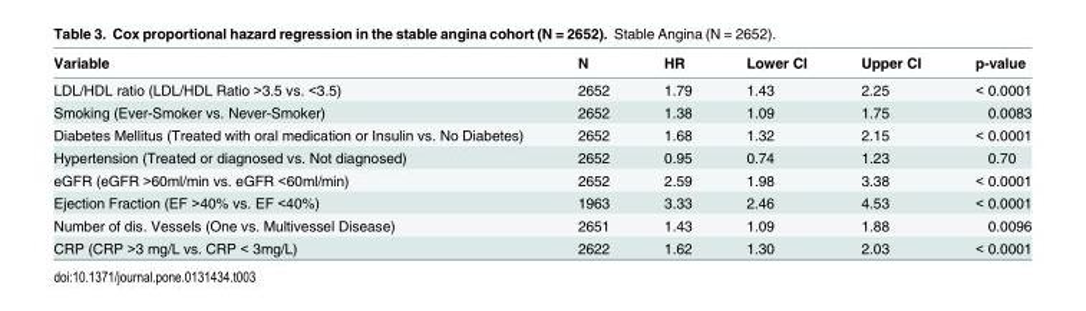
<table><thead><tr><td>Variable</td><td>N</td><td>HR</td><td>Lower CI</td><td>Upper CI</td><td>p-value</td></tr></thead><tbody><tr><td>LDL/HDL ratio (LDL/HDL Ratio &gt;3.5 vs. &lt;3.5)</td><td>2652</td><td>1.79</td><td>1.43</td><td>2.25</td><td>&lt; 0.0001</td></tr><tr><td>Smoking (Ever-Smoker vs. Never-Smoker)</td><td>2652</td><td>1.38</td><td>1.09</td><td>1.75</td><td>0.0083</td></tr><tr><td>Diabetes Mellitus (Treated with oral medication or Insulin vs. No Diabetes)</td><td>2652</td><td>1.68</td><td>1.32</td><td>2.15</td><td>&lt; 0.0001</td></tr><tr><td>Hypertension (Treated or diagnosed vs. Not diagnosed)</td><td>2652</td><td>0.95</td><td>0.74</td><td>1.23</td><td>0.70</td></tr><tr><td>eGFR (eGFR &gt;60ml/min vs. eGFR &lt;60ml/min)</td><td>2652</td><td>2.59</td><td>1.98</td><td>3.38</td><td>&lt; 0.0001</td></tr><tr><td>Ejection Fraction (EF &gt;40% vs. EF &lt;40%)</td><td>1963</td><td>3.33</td><td>2.46</td><td>4.53</td><td>&lt; 0.0001</td></tr><tr><td>Number of dis. Vessels (One vs. Multivessel Disease)</td><td>2651</td><td>1.43</td><td>1.09</td><td>1.88</td><td>0.0096</td></tr><tr><td>CRP (CRP &gt;3 mg/L vs. CRP &lt; 3mg/L)</td><td>2622</td><td>1.62</td><td>1.30</td><td>2.03</td><td>&lt; 0.0001</td></tr></tbody></table>